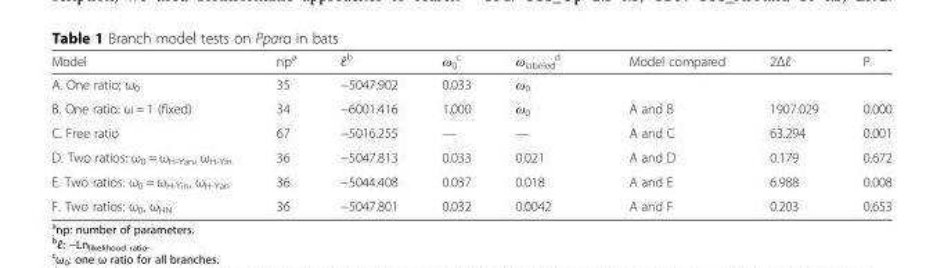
<table><thead><tr><td>Model</td><td>np<sup>a</sup></td><td>ℓ<sup>b</sup></td><td>ω<sub>0</sub> <sup>c</sup></td><td>ω<sub>labeled</sub> <sup>d</sup></td><td>Model compared</td><td>2Δℓ</td><td>P</td></tr></thead><tbody><tr><td>A. One ratio: ω<sub>0</sub></td><td>35</td><td>−5047.902</td><td>0.033</td><td>ω<sub>0</sub></td><td></td><td></td><td></td></tr><tr><td>B. One ratio: ω = 1 (fixed)</td><td>34</td><td>−6001.416</td><td>1.000</td><td>ω<sub>0</sub></td><td>A and B</td><td>1907.029</td><td>0.000</td></tr><tr><td>C. Free ratio</td><td>67</td><td>−5016.255</td><td>—</td><td>—</td><td>A and C</td><td>63.294</td><td>0.001</td></tr><tr><td>D. Two ratios: ω<sub>0</sub> = ω<sub>H-Yan</sub>, ω<sub>H-Yin</sub></td><td>36</td><td>−5047.813</td><td>0.033</td><td>0.021</td><td>A and D</td><td>0.179</td><td>0.672</td></tr><tr><td>E. Two ratios: ω<sub>0</sub> = ω<sub>H-Yin</sub>, ω<sub>H-Yan</sub></td><td>36</td><td>−5044.408</td><td>0.037</td><td>0.018</td><td>A and E</td><td>6.988</td><td>0.008</td></tr><tr><td>F. Two ratios: ω<sub>0</sub>, ω<sub>HN</sub></td><td>36</td><td>−5047.801</td><td>0.032</td><td>0.0042</td><td>A and F</td><td>0.203</td><td>0.653</td></tr></tbody></table>